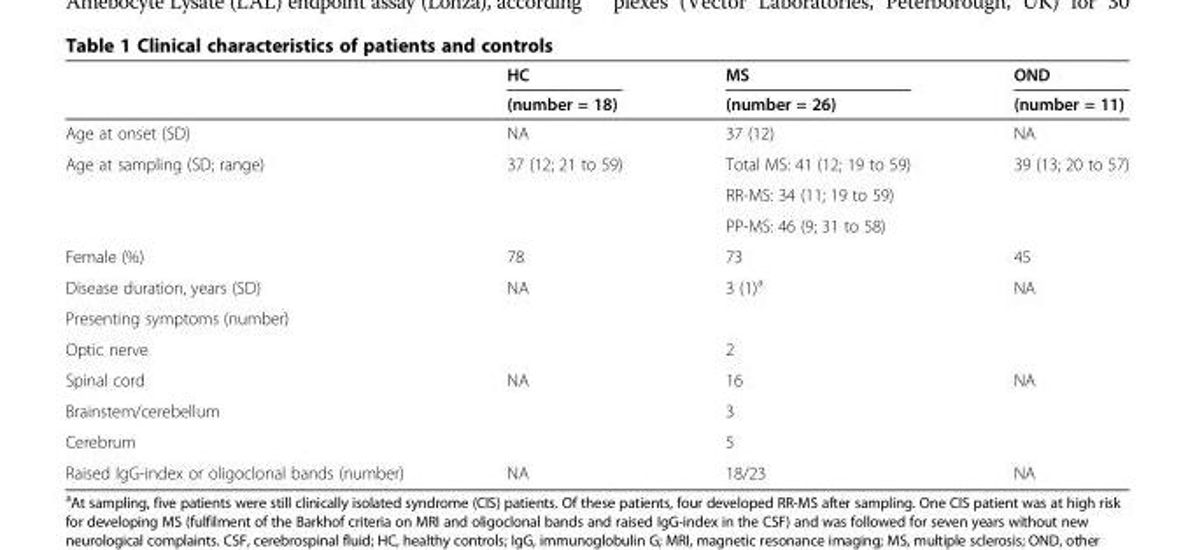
<table><thead><tr><td rowspan="2"></td><td rowspan="2">HC (number = 18)</td><td rowspan="2">MS (number = 26)</td><td rowspan="2">OND (number = 11)</td></tr><tr></tr></thead><tbody><tr><td>Age at onset (SD)</td><td>NA</td><td>37 (12)</td><td>NA</td></tr><tr><td rowspan="3">Age at sampling (SD; range)</td><td>37 (12; 21 to 59)</td><td>Total MS: 41 (12; 19 to 59)</td><td>39 (13; 20 to 57)</td></tr><tr><td></td><td>RR-MS: 34 (11; 19 to 59)</td><td></td></tr><tr><td></td><td>PP-MS: 46 (9; 31 to 58)</td><td></td></tr><tr><td>Female (%)</td><td>78</td><td>73</td><td>45</td></tr><tr><td>Disease duration, years (SD)</td><td>NA</td><td>3 (1)<sup>a</sup></td><td>NA</td></tr><tr><td colspan="4">Presenting symptoms (number)</td></tr><tr><td>Optic nerve</td><td></td><td>2</td><td></td></tr><tr><td>Spinal cord</td><td>NA</td><td>16</td><td>NA</td></tr><tr><td>Brainstem/cerebellum</td><td></td><td>3</td><td></td></tr><tr><td>Cerebrum</td><td></td><td>5</td><td></td></tr><tr><td>Raised IgG-index or oligoclonal bands (number)</td><td>NA</td><td>18/23</td><td>NA</td></tr></tbody></table>